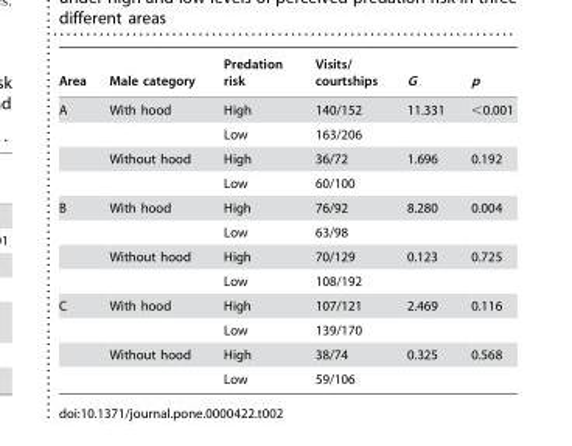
<table><thead><tr><td>Area</td><td>Male category</td><td>Predation risk</td><td>Visits/ courtships</td><td>G</td><td>p</td></tr></thead><tbody><tr><td rowspan="4">A</td><td>With hood</td><td>High</td><td>140/152</td><td>11.331</td><td>&lt;0.001</td></tr><tr><td></td><td>Low</td><td>163/206</td><td></td><td></td></tr><tr><td>Without hood</td><td>High</td><td>36/72</td><td>1.696</td><td>0.192</td></tr><tr><td></td><td>Low</td><td>60/100</td><td></td><td></td></tr><tr><td rowspan="4">B</td><td>With hood</td><td>High</td><td>76/92</td><td>8.280</td><td>0.004</td></tr><tr><td></td><td>Low</td><td>63/98</td><td></td><td></td></tr><tr><td>Without hood</td><td>High</td><td>70/129</td><td>0.123</td><td>0.725</td></tr><tr><td></td><td>Low</td><td>108/192</td><td></td><td></td></tr><tr><td rowspan="4">C</td><td>With hood</td><td>High</td><td>107/121</td><td>2.469</td><td>0.116</td></tr><tr><td></td><td>Low</td><td>139/170</td><td></td><td></td></tr><tr><td>Without hood</td><td>High</td><td>38/74</td><td>0.325</td><td>0.568</td></tr><tr><td></td><td>Low</td><td>59/106</td><td></td><td></td></tr></tbody></table>